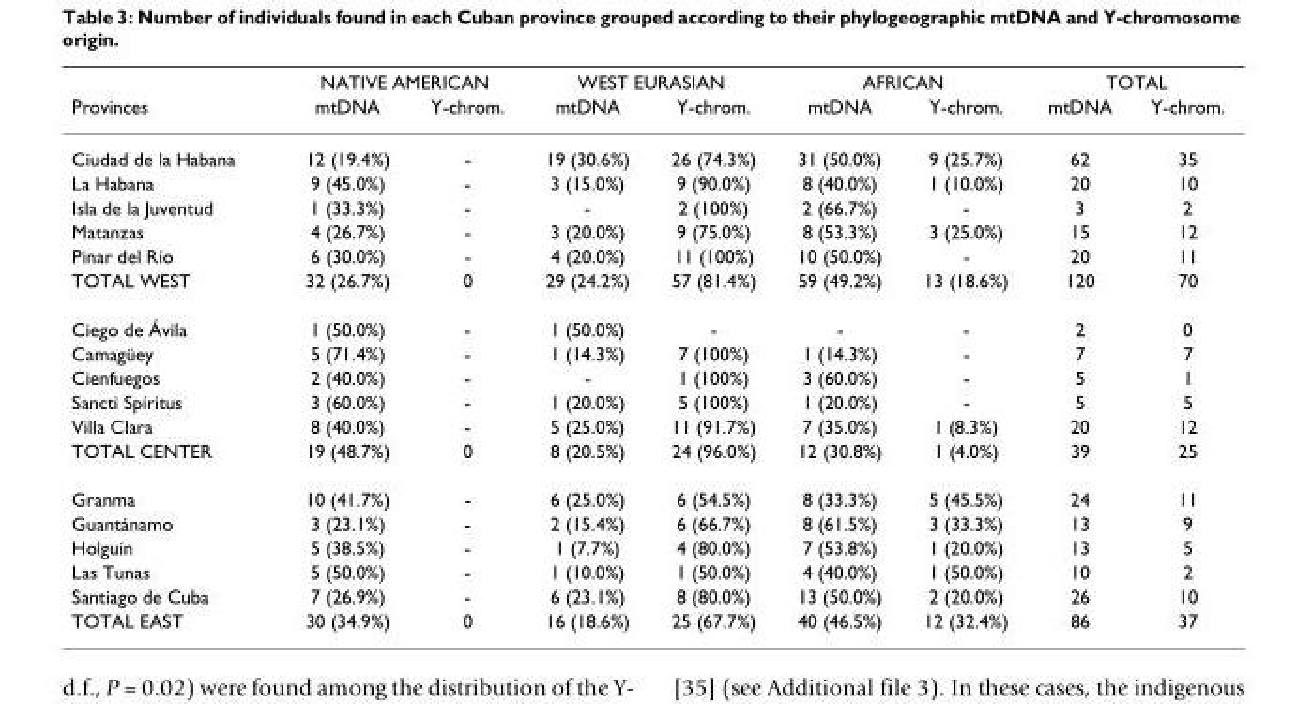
<table><thead><tr><td rowspan="2">Provinces</td><td colspan="2">NATIVE AMERICAN</td><td colspan="2">WEST EURASIAN</td><td colspan="2">AFRICAN</td><td colspan="2">TOTAL</td></tr><tr><td>mtDNA</td><td>Y-chrom.</td><td>mtDNA</td><td>Y-chrom.</td><td>mtDNA</td><td>Y-chrom.</td><td>mtDNA</td><td>Y-chrom.</td></tr></thead><tbody><tr><td>Ciudad de la Habana</td><td>12 (19.4%)</td><td>-</td><td>19 (30.6%)</td><td>26 (74.3%)</td><td>31 (50.0%)</td><td>9 (25.7%)</td><td>62</td><td>35</td></tr><tr><td>La Habana</td><td>9 (45.0%)</td><td>-</td><td>3 (15.0%)</td><td>9 (90.0%)</td><td>8 (40.0%)</td><td>1 (10.0%)</td><td>20</td><td>10</td></tr><tr><td>Isla de la Juventud</td><td>1 (33.3%)</td><td>-</td><td>-</td><td>2 (100%)</td><td>2 (66.7%)</td><td>-</td><td>3</td><td>2</td></tr><tr><td>Matanzas</td><td>4 (26.7%)</td><td>-</td><td>3 (20.0%)</td><td>9 (75.0%)</td><td>8 (53.3%)</td><td>3 (25.0%)</td><td>15</td><td>12</td></tr><tr><td>Pinar del Río</td><td>6 (30.0%)</td><td>-</td><td>4 (20.0%)</td><td>11 (100%)</td><td>10 (50.0%)</td><td>-</td><td>20</td><td>11</td></tr><tr><td>TOTAL WEST</td><td>32 (26.7%)</td><td>0</td><td>29 (24.2%)</td><td>57 (81.4%)</td><td>59 (49.2%)</td><td>13 (18.6%)</td><td>120</td><td>70</td></tr><tr><td>Ciego de Ávila</td><td>1 (50.0%)</td><td>-</td><td>1 (50.0%)</td><td>-</td><td>-</td><td>-</td><td>2</td><td>0</td></tr><tr><td>Camagüey</td><td>5 (71.4%)</td><td>-</td><td>1 (14.3%)</td><td>7 (100%)</td><td>1 (14.3%)</td><td>-</td><td>7</td><td>7</td></tr><tr><td>Cienfuegos</td><td>2 (40.0%)</td><td>-</td><td>-</td><td>1 (100%)</td><td>3 (60.0%)</td><td>-</td><td>5</td><td>1</td></tr><tr><td>Sancti Spíritus</td><td>3 (60.0%)</td><td>-</td><td>1 (20.0%)</td><td>5 (100%)</td><td>1 (20.0%)</td><td>-</td><td>5</td><td>5</td></tr><tr><td>Villa Clara</td><td>8 (40.0%)</td><td>-</td><td>5 (25.0%)</td><td>11 (91.7%)</td><td>7 (35.0%)</td><td>1 (8.3%)</td><td>20</td><td>12</td></tr><tr><td>TOTAL CENTER</td><td>19 (48.7%)</td><td>0</td><td>8 (20.5%)</td><td>24 (96.0%)</td><td>12 (30.8%)</td><td>1 (4.0%)</td><td>39</td><td>25</td></tr><tr><td>Granma</td><td>10 (41.7%)</td><td>-</td><td>6 (25.0%)</td><td>6 (54.5%)</td><td>8 (33.3%)</td><td>5 (45.5%)</td><td>24</td><td>11</td></tr><tr><td>Guantánamo</td><td>3 (23.1%)</td><td>-</td><td>2 (15.4%)</td><td>6 (66.7%)</td><td>8 (61.5%)</td><td>3 (33.3%)</td><td>13</td><td>9</td></tr><tr><td>Holguín</td><td>5 (38.5%)</td><td>-</td><td>1 (7.7%)</td><td>4 (80.0%)</td><td>7 (53.8%)</td><td>1 (20.0%)</td><td>13</td><td>5</td></tr><tr><td>Las Tunas</td><td>5 (50.0%)</td><td>-</td><td>1 (10.0%)</td><td>1 (50.0%)</td><td>4 (40.0%)</td><td>1 (50.0%)</td><td>10</td><td>2</td></tr><tr><td>Santiago de Cuba</td><td>7 (26.9%)</td><td>-</td><td>6 (23.1%)</td><td>8 (80.0%)</td><td>13 (50.0%)</td><td>2 (20.0%)</td><td>26</td><td>10</td></tr><tr><td>TOTAL EAST</td><td>30 (34.9%)</td><td>0</td><td>16 (18.6%)</td><td>25 (67.7%)</td><td>40 (46.5%)</td><td>12 (32.4%)</td><td>86</td><td>37</td></tr></tbody></table>